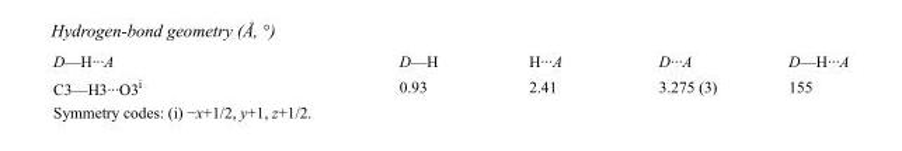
<table><tbody><tr><td>D—H···A</td><td>D—H</td><td>H···A</td><td>D···A</td><td>D—H···A</td></tr><tr><td>C3—H3···O3<sup>i</sup></td><td>0.93</td><td>2.41</td><td>3.275 (3)</td><td>155</td></tr></tbody></table>